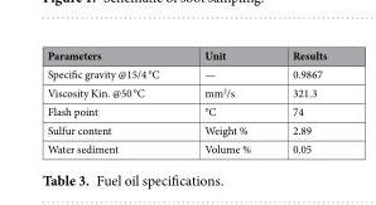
<table><thead><tr><td>Parameters</td><td>Unit</td><td>Results</td></tr></thead><tbody><tr><td>Specific gravity @15/4 °C</td><td>—</td><td>0.9867</td></tr><tr><td>Viscosity Kin. @50 °C</td><td>mm<sup>2</sup>/s</td><td>321.3</td></tr><tr><td>Flash point</td><td>°C</td><td>74</td></tr><tr><td>Sulfur content</td><td>Weight %</td><td>2.89</td></tr><tr><td>Water sediment</td><td>Volume %</td><td>0.05</td></tr></tbody></table>